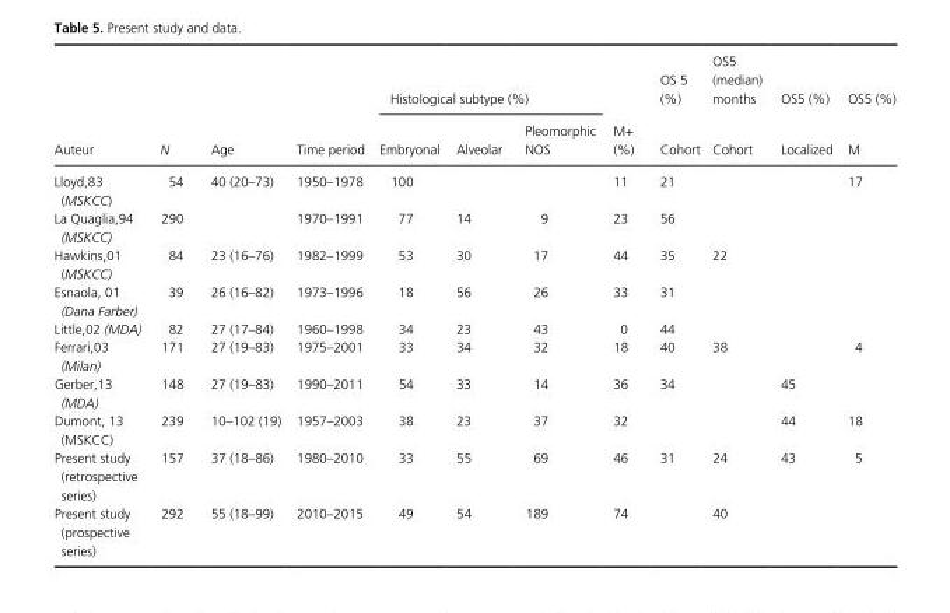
<table><thead><tr><td rowspan="2">Auteur</td><td rowspan="2">N</td><td rowspan="2">Age</td><td rowspan="2">Time period</td><td colspan="3">Histological subtype (%)</td><td rowspan="2">M+ (%)</td><td rowspan="2">OS 5 (%) Cohort</td><td rowspan="2">OS5 (median) months Cohort</td><td rowspan="2">OS5 (%) Localized</td><td rowspan="2">OS5 (%) M</td></tr><tr><td>Embryonal</td><td>Alveolar</td><td>Pleomorphic NOS</td></tr></thead><tbody><tr><td>Lloyd,83 (MSKCC)</td><td>54</td><td>40 (20–73)</td><td>1950–1978</td><td>100</td><td></td><td></td><td>11</td><td>21</td><td></td><td></td><td>17</td></tr><tr><td>La Quaglia,94 (MSKCC)</td><td>290</td><td></td><td>1970–1991</td><td>77</td><td>14</td><td>9</td><td>23</td><td>56</td><td></td><td></td><td></td></tr><tr><td>Hawkins,01 (MSKCC)</td><td>84</td><td>23 (16–76)</td><td>1982–1999</td><td>53</td><td>30</td><td>17</td><td>44</td><td>35</td><td>22</td><td></td><td></td></tr><tr><td>Esnaola, 01 (Dana Farber)</td><td>39</td><td>26 (16–82)</td><td>1973–1996</td><td>18</td><td>56</td><td>26</td><td>33</td><td>31</td><td></td><td></td><td></td></tr><tr><td>Little,02 (MDA)</td><td>82</td><td>27 (17–84)</td><td>1960–1998</td><td>34</td><td>23</td><td>43</td><td>0</td><td>44</td><td></td><td></td><td></td></tr><tr><td>Ferrari,03 (Milan)</td><td>171</td><td>27 (19–83)</td><td>1975–2001</td><td>33</td><td>34</td><td>32</td><td>18</td><td>40</td><td>38</td><td></td><td>4</td></tr><tr><td>Gerber,13 (MDA)</td><td>148</td><td>27 (19–83)</td><td>1990–2011</td><td>54</td><td>33</td><td>14</td><td>36</td><td>34</td><td></td><td>45</td><td></td></tr><tr><td>Dumont, 13 (MSKCC)</td><td>239</td><td>10–102 (19)</td><td>1957–2003</td><td>38</td><td>23</td><td>37</td><td>32</td><td></td><td></td><td>44</td><td>18</td></tr><tr><td>Present study (retrospective series)</td><td>157</td><td>37 (18–86)</td><td>1980–2010</td><td>33</td><td>55</td><td>69</td><td>46</td><td>31</td><td>24</td><td>43</td><td>5</td></tr><tr><td>Present study (prospective series)</td><td>292</td><td>55 (18–99)</td><td>2010–2015</td><td>49</td><td>54</td><td>189</td><td>74</td><td></td><td>40</td><td></td><td></td></tr></tbody></table>